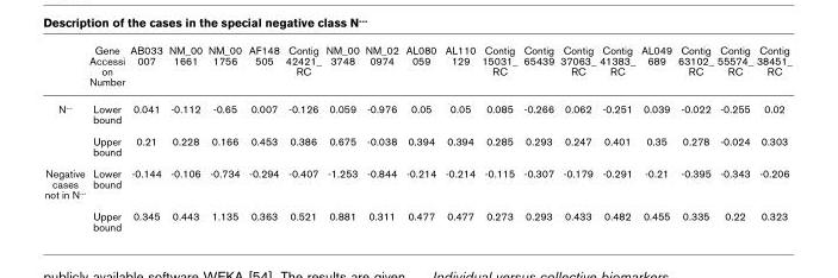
<table><thead><tr><td></td><td>Gene Accessi on Number</td><td>AB033 007</td><td>NM_00 1661</td><td>NM_00 1756</td><td>AF148 505</td><td>Contig 42421_ RC</td><td>NM_00 3748</td><td>NM_02 0974</td><td>AL080 059</td><td>AL110 129</td><td>Contig 15031_ RC</td><td>Contig 65439</td><td>Contig 37063_ RC</td><td>Contig 41383_ RC</td><td>AL049 689</td><td>Contig 63102_ RC</td><td>Contig 55574_ RC</td><td>Contig 38451_ RC</td></tr></thead><tbody><tr><td rowspan="2">N---</td><td>Lower bound</td><td>0.041</td><td>-0.112</td><td>-0.65</td><td>0.007</td><td>-0.126</td><td>0.059</td><td>-0.976</td><td>0.05</td><td>0.05</td><td>0.085</td><td>-0.266</td><td>0.062</td><td>-0.251</td><td>0.039</td><td>-0.022</td><td>-0.255</td><td>0.02</td></tr><tr><td>Upper bound</td><td>0.21</td><td>0.228</td><td>0.166</td><td>0.453</td><td>0.386</td><td>0.675</td><td>-0.038</td><td>0.394</td><td>0.394</td><td>0.285</td><td>0.293</td><td>0.247</td><td>0.401</td><td>0.35</td><td>0.278</td><td>-0.024</td><td>0.303</td></tr><tr><td rowspan="2">Negative cases not in N---</td><td>Lower bound</td><td>-0.144</td><td>-0.106</td><td>-0.734</td><td>-0.294</td><td>-0.407</td><td>-1.253</td><td>-0.844</td><td>-0.214</td><td>-0.214</td><td>-0.115</td><td>-0.307</td><td>-0.179</td><td>-0.291</td><td>-0.21</td><td>-0.395</td><td>-0.343</td><td>-0.206</td></tr><tr><td>Upper bound</td><td>0.345</td><td>0.443</td><td>1.135</td><td>0.363</td><td>0.521</td><td>0.881</td><td>0.311</td><td>0.477</td><td>0.477</td><td>0.273</td><td>0.293</td><td>0.433</td><td>0.482</td><td>0.455</td><td>0.335</td><td>0.22</td><td>0.323</td></tr></tbody></table>